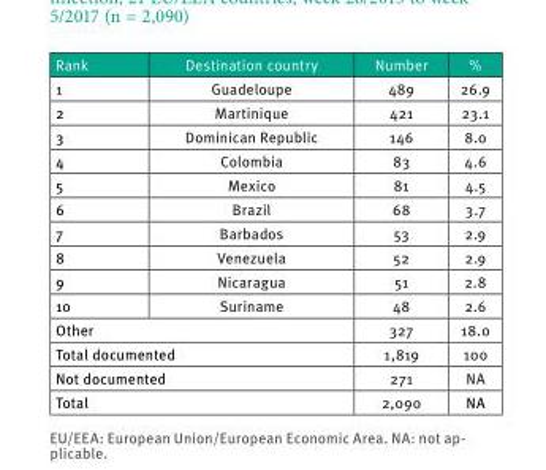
<table><thead><tr><td>Rank</td><td>Destination country</td><td>Number</td><td>%</td></tr></thead><tbody><tr><td>1</td><td>Guadeloupe</td><td>489</td><td>26.9</td></tr><tr><td>2</td><td>Martinique</td><td>421</td><td>23.1</td></tr><tr><td>3</td><td>Dominican Republic</td><td>146</td><td>8.0</td></tr><tr><td>4</td><td>Colombia</td><td>83</td><td>4.6</td></tr><tr><td>5</td><td>Mexico</td><td>81</td><td>4.5</td></tr><tr><td>6</td><td>Brazil</td><td>68</td><td>3.7</td></tr><tr><td>7</td><td>Barbados</td><td>53</td><td>2.9</td></tr><tr><td>8</td><td>Venezuela</td><td>52</td><td>2.9</td></tr><tr><td>9</td><td>Nicaragua</td><td>51</td><td>2.8</td></tr><tr><td>10</td><td>Suriname</td><td>48</td><td>2.6</td></tr><tr><td colspan="2">Other</td><td>327</td><td>18.0</td></tr><tr><td colspan="2">Total documented</td><td>1,819</td><td>100</td></tr><tr><td colspan="2">Not documented</td><td>271</td><td>NA</td></tr><tr><td colspan="2">Total</td><td>2,090</td><td>NA</td></tr></tbody></table>